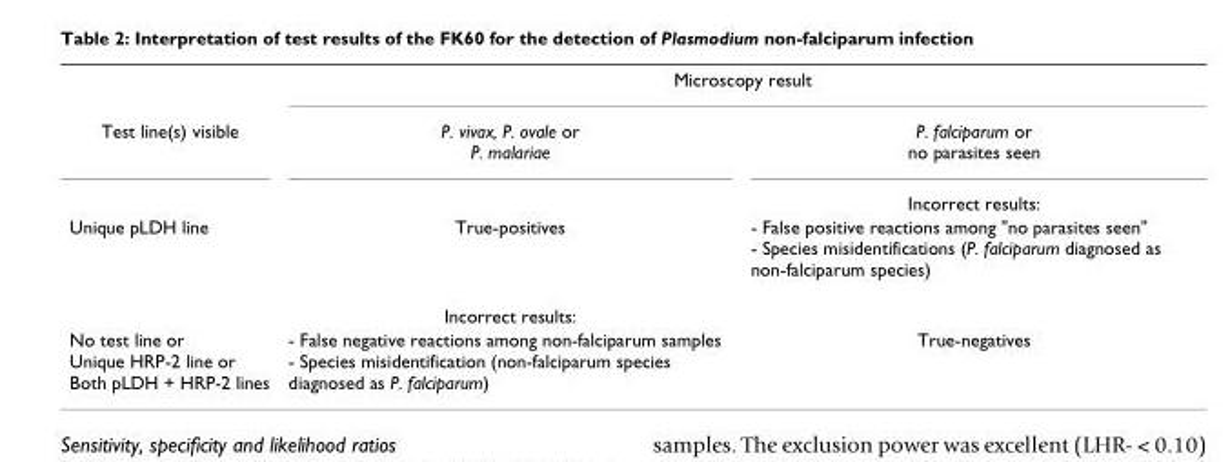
<table><thead><tr><td rowspan="2">Test line(s) visible</td><td colspan="2">Microscopy result</td></tr><tr><td>P. vivax, P. ovale or P. malariae</td><td>P. falciparum or no parasites seen</td></tr></thead><tbody><tr><td></td><td></td><td>Incorrect results:</td></tr><tr><td rowspan="2">Unique pLDH line</td><td>True-positives</td><td>- False positive reactions among &quot;no parasites seen&quot; - Species misidentifications (P. falciparum diagnosed as non-falciparum species)</td></tr><tr><td>Incorrect results:</td><td></td></tr><tr><td>No test line or Unique HRP-2 line or Both pLDH + HRP-2 lines</td><td>- False negative reactions among non-falciparum samples - Species misidentification (non-falciparum species diagnosed as P. falciparum)</td><td>True-negatives</td></tr></tbody></table>